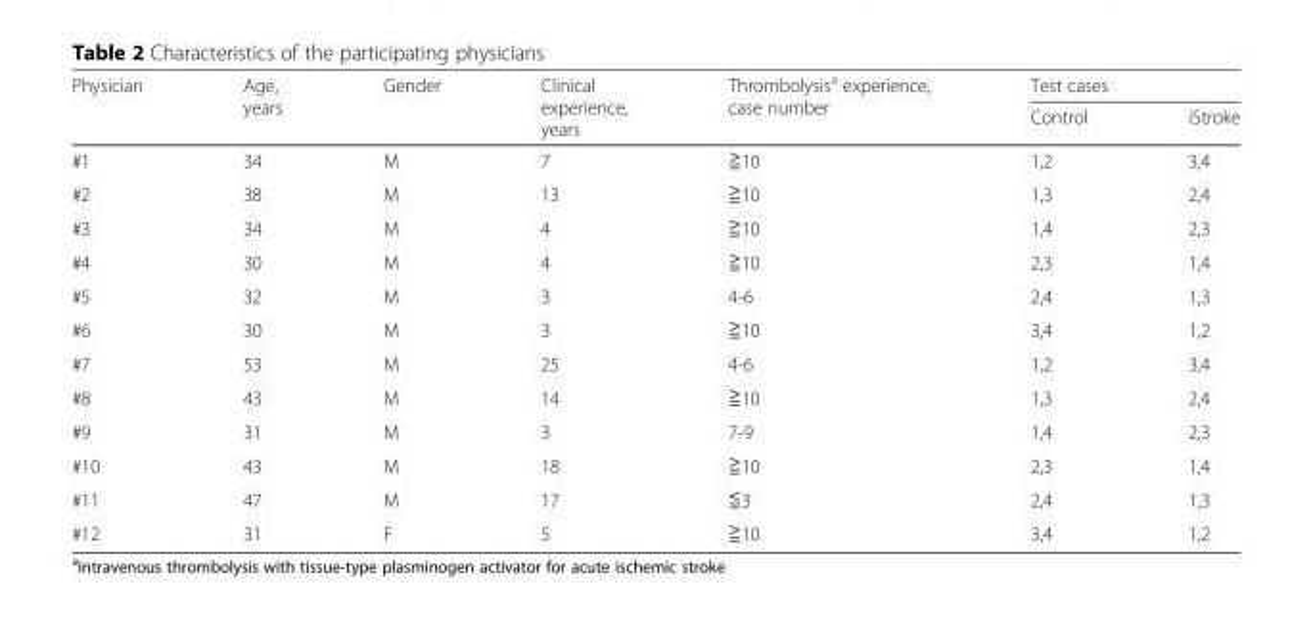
<table><thead><tr><td rowspan="2">Physician</td><td rowspan="2">Age, years</td><td rowspan="2">Gender</td><td rowspan="2">Clinical experience, years</td><td rowspan="2">Thrombolysis<sup>a</sup> experience, case number</td><td colspan="2">Test cases</td></tr><tr><td>Control</td><td>iStroke</td></tr></thead><tbody><tr><td>#1</td><td>34</td><td>M</td><td>7</td><td>≧10</td><td>1,2</td><td>3,4</td></tr><tr><td>#2</td><td>38</td><td>M</td><td>13</td><td>≧10</td><td>1,3</td><td>2,4</td></tr><tr><td>#3</td><td>34</td><td>M</td><td>4</td><td>≧10</td><td>1,4</td><td>2,3</td></tr><tr><td>#4</td><td>30</td><td>M</td><td>4</td><td>≧10</td><td>2,3</td><td>1,4</td></tr><tr><td>#5</td><td>32</td><td>M</td><td>3</td><td>4-6</td><td>2,4</td><td>1,3</td></tr><tr><td>#6</td><td>30</td><td>M</td><td>3</td><td>≧10</td><td>3,4</td><td>1,2</td></tr><tr><td>#7</td><td>53</td><td>M</td><td>25</td><td>4-6</td><td>1,2</td><td>3,4</td></tr><tr><td>#8</td><td>43</td><td>M</td><td>14</td><td>≧10</td><td>1,3</td><td>2,4</td></tr><tr><td>#9</td><td>31</td><td>M</td><td>3</td><td>7-9</td><td>1,4</td><td>2,3</td></tr><tr><td>#10</td><td>43</td><td>M</td><td>18</td><td>≧10</td><td>2,3</td><td>1,4</td></tr><tr><td>#11</td><td>47</td><td>M</td><td>17</td><td>≦3</td><td>2,4</td><td>1,3</td></tr><tr><td>#12</td><td>31</td><td>F</td><td>5</td><td>≧10</td><td>3,4</td><td>1,2</td></tr></tbody></table>